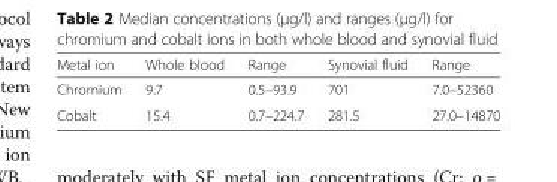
<table><thead><tr><td>Metal ion</td><td>Whole blood</td><td>Range</td><td>Synovial fluid</td><td>Range</td></tr></thead><tbody><tr><td>Chromium</td><td>9.7</td><td>0.5–93.9</td><td>701</td><td>7.0–52360</td></tr><tr><td>Cobalt</td><td>15.4</td><td>0.7–224.7</td><td>281.5</td><td>27.0–14870</td></tr></tbody></table>